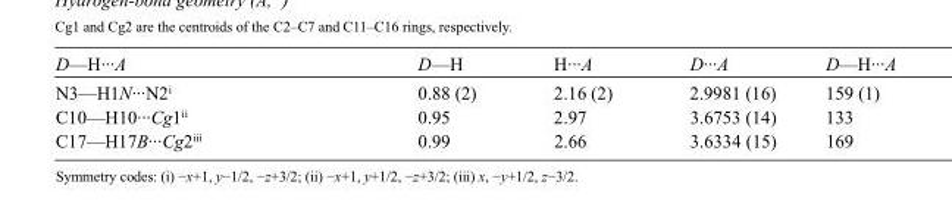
<table><tbody><tr><td>D—H···A</td><td>D—H</td><td>H···A</td><td>D···A</td><td>D—H···A</td></tr><tr><td>N3—H1N···N2<sup>i</sup></td><td>0.88 (2)</td><td>2.16 (2)</td><td>2.9981 (16)</td><td>159 (1)</td></tr><tr><td>C10—H10···Cg1<sup>ii</sup></td><td>0.95</td><td>2.97</td><td>3.6753 (14)</td><td>133</td></tr><tr><td>C17—H17B···Cg2<sup>iii</sup></td><td>0.99</td><td>2.66</td><td>3.6334 (15)</td><td>169</td></tr></tbody></table>